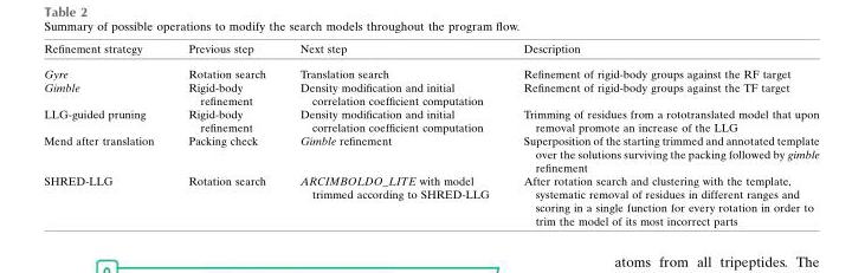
<table><thead><tr><td>Refinement strategy</td><td>Previous step</td><td>Next step</td><td>Description</td></tr></thead><tbody><tr><td>Gyre</td><td>Rotation search</td><td>Translation search</td><td>Refinement of rigid-body groups against the RF target</td></tr><tr><td>Gimble</td><td>Rigid-body refinement</td><td>Density modification and initial correlation coefficient computation</td><td>Refinement of rigid-body groups against the TF target</td></tr><tr><td>LLG-guided pruning</td><td>Rigid-body refinement</td><td>Density modification and initial correlation coefficient computation</td><td>Trimming of residues from a rototranslated model that upon removal promote an increase of the LLG</td></tr><tr><td>Mend after translation</td><td>Packing check</td><td>Gimble refinement</td><td>Superposition of the starting trimmed and annotated template over the solutions surviving the packing followed by gimble refinement</td></tr><tr><td>SHRED-LLG</td><td>Rotation search</td><td>ARCIMBOLDO_LITE with model trimmed according to SHRED-LLG</td><td>After rotation search and clustering with the template, systematic removal of residues in different ranges and scoring in a single function for every rotation in order to trim the model of its most incorrect parts</td></tr></tbody></table>